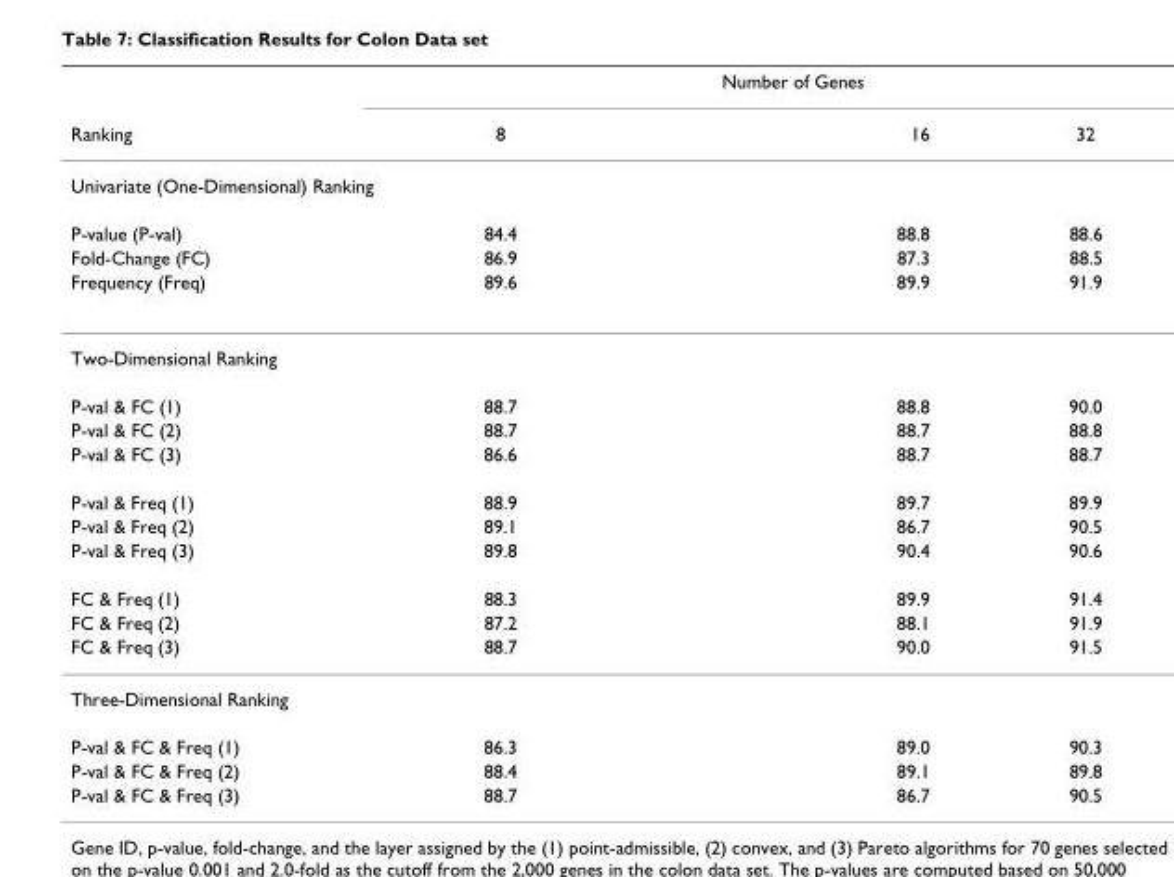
<table><thead><tr><td rowspan="2">Ranking</td><td colspan="3">Number of Genes</td></tr><tr><td>8</td><td>16</td><td>32</td></tr></thead><tbody><tr><td colspan="4">Univariate (One-Dimensional) Ranking</td></tr><tr><td>P-value (P-val)</td><td>84.4</td><td>88.8</td><td>88.6</td></tr><tr><td>Fold-Change (FC)</td><td>86.9</td><td>87.3</td><td>88.5</td></tr><tr><td>Frequency (Freq)</td><td>89.6</td><td>89.9</td><td>91.9</td></tr><tr><td colspan="4">Two-Dimensional Ranking</td></tr><tr><td>P-val &amp; FC (1)</td><td>88.7</td><td>88.8</td><td>90.0</td></tr><tr><td>P-val &amp; FC (2)</td><td>88.7</td><td>88.7</td><td>88.8</td></tr><tr><td>P-val &amp; FC (3)</td><td>86.6</td><td>88.7</td><td>88.7</td></tr><tr><td>P-val &amp; Freq (1)</td><td>88.9</td><td>89.7</td><td>89.9</td></tr><tr><td>P-val &amp; Freq (2)</td><td>89.1</td><td>86.7</td><td>90.5</td></tr><tr><td>P-val &amp; Freq (3)</td><td>89.8</td><td>90.4</td><td>90.6</td></tr><tr><td>FC &amp; Freq (1)</td><td>88.3</td><td>89.9</td><td>91.4</td></tr><tr><td>FC &amp; Freq (2)</td><td>87.2</td><td>88.1</td><td>91.9</td></tr><tr><td>FC &amp; Freq (3)</td><td>88.7</td><td>90.0</td><td>91.5</td></tr><tr><td colspan="4">Three-Dimensional Ranking</td></tr><tr><td>P-val &amp; FC &amp; Freq (1)</td><td>86.3</td><td>89.0</td><td>90.3</td></tr><tr><td>P-val &amp; FC &amp; Freq (2)</td><td>88.4</td><td>89.1</td><td>89.8</td></tr><tr><td>P-val &amp; FC &amp; Freq (3)</td><td>88.7</td><td>86.7</td><td>90.5</td></tr></tbody></table>